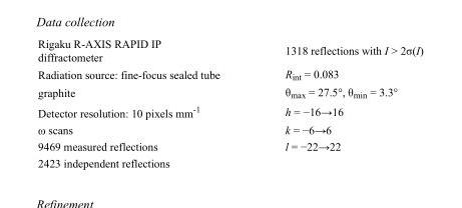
<table><tbody><tr><td>Rigaku R-AXIS RAPID IP diffractometer</td><td>1318 reflections with I &gt; 2σ(I)</td></tr><tr><td>Radiation source: fine-focus sealed tube</td><td>R<sub>int</sub> = 0.083</td></tr><tr><td>graphite</td><td>θ<sub>max</sub> = 27.5°, θ<sub>min</sub> = 3.3°</td></tr><tr><td>Detector resolution: 10 pixels mm<sup>-1</sup></td><td>h = −16→16</td></tr><tr><td>ω scans</td><td>k = −6→6</td></tr><tr><td>9469 measured reflections</td><td>l = −22→22</td></tr><tr><td>2423 independent reflections</td><td></td></tr></tbody></table>